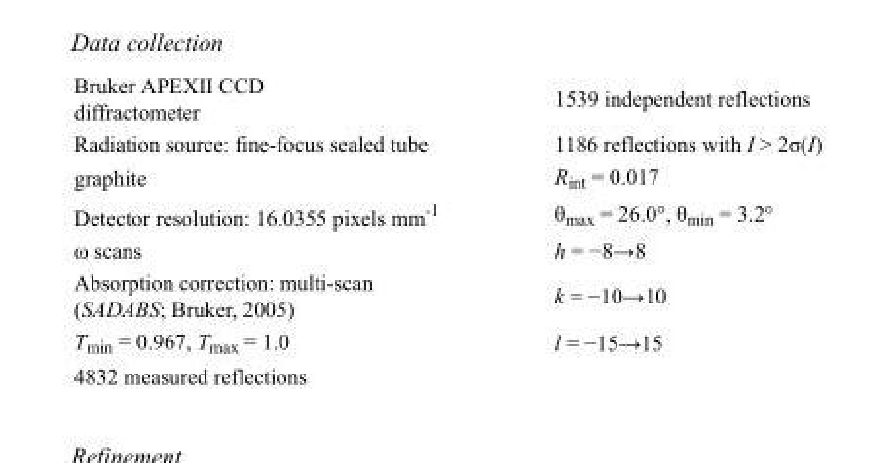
<table><tbody><tr><td>Bruker APEXII CCD diffractometer</td><td>1539 independent reflections</td></tr><tr><td>Radiation source: fine-focus sealed tube</td><td>1186 reflections with I &gt; 2σ(I)</td></tr><tr><td>graphite</td><td>R<sub>int</sub> = 0.017</td></tr><tr><td>Detector resolution: 16.0355 pixels mm<sup>-1</sup></td><td>θ<sub>max</sub> = 26.0°, θ<sub>min</sub> = 3.2°</td></tr><tr><td>ω scans</td><td>h = −8→8</td></tr><tr><td>Absorption correction: multi-scan (SADABS; Bruker, 2005)</td><td>k = −10→10</td></tr><tr><td>T<sub>min</sub> = 0.967, T<sub>max</sub> = 1.0</td><td>l = −15→15</td></tr><tr><td>4832 measured reflections</td><td></td></tr></tbody></table>